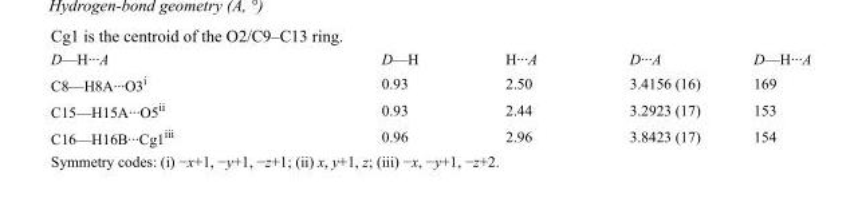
<table><tbody><tr><td>D—H···A</td><td>D—H</td><td>H···A</td><td>D···A</td><td>D—H···A</td></tr><tr><td>C8—H8A···O3<sup>i</sup></td><td>0.93</td><td>2.50</td><td>3.4156 (16)</td><td>169</td></tr><tr><td>C15—H15A···O5<sup>ii</sup></td><td>0.93</td><td>2.44</td><td>3.2923 (17)</td><td>153</td></tr><tr><td>C16—H16B···Cg1<sup>iii</sup></td><td>0.96</td><td>2.96</td><td>3.8423 (17)</td><td>154</td></tr></tbody></table>